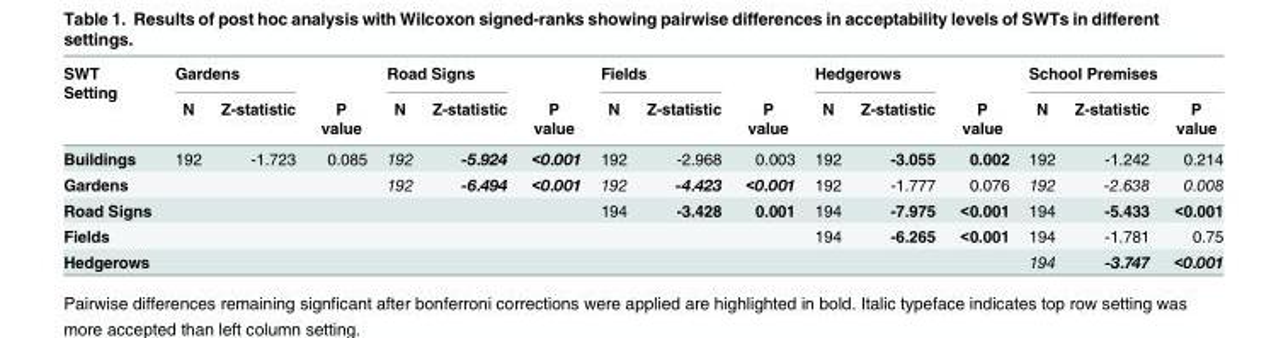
<table><thead><tr><td rowspan="2">SWT Setting</td><td colspan="2">Gardens</td><td rowspan="2">P value</td><td colspan="2">Road Signs</td><td rowspan="2">P value</td><td colspan="2">Fields</td><td rowspan="2">P value</td><td colspan="2">Hedgerows</td><td rowspan="2">P value</td><td colspan="3">School Premises</td></tr><tr><td>N</td><td>Z-statistic</td><td>N</td><td>Z-statistic</td><td>N</td><td>Z-statistic</td><td>N</td><td>Z-statistic</td><td>N</td><td>Z-statistic</td><td>P value</td></tr></thead><tbody><tr><td>Buildings</td><td>192</td><td>-1.723</td><td>0.085</td><td>192</td><td>-5.924</td><td>&lt;0.001</td><td>192</td><td>-2.968</td><td>0.003</td><td>192</td><td>-3.055</td><td>0.002</td><td>192</td><td>-1.242</td><td>0.214</td></tr><tr><td>Gardens</td><td></td><td></td><td></td><td>192</td><td>-6.494</td><td>&lt;0.001</td><td>192</td><td>-4.423</td><td>&lt;0.001</td><td>192</td><td>-1.777</td><td>0.076</td><td>192</td><td>-2.638</td><td>0.008</td></tr><tr><td>Road Signs</td><td></td><td></td><td></td><td></td><td></td><td></td><td>194</td><td>-3.428</td><td>0.001</td><td>194</td><td>-7.975</td><td>&lt;0.001</td><td>194</td><td>-5.433</td><td>&lt;0.001</td></tr><tr><td>Fields</td><td></td><td></td><td></td><td></td><td></td><td></td><td></td><td></td><td></td><td>194</td><td>-6.265</td><td>&lt;0.001</td><td>194</td><td>-1.781</td><td>0.75</td></tr><tr><td>Hedgerows</td><td></td><td></td><td></td><td></td><td></td><td></td><td></td><td></td><td></td><td></td><td></td><td></td><td>194</td><td>-3.747</td><td>&lt;0.001</td></tr></tbody></table>